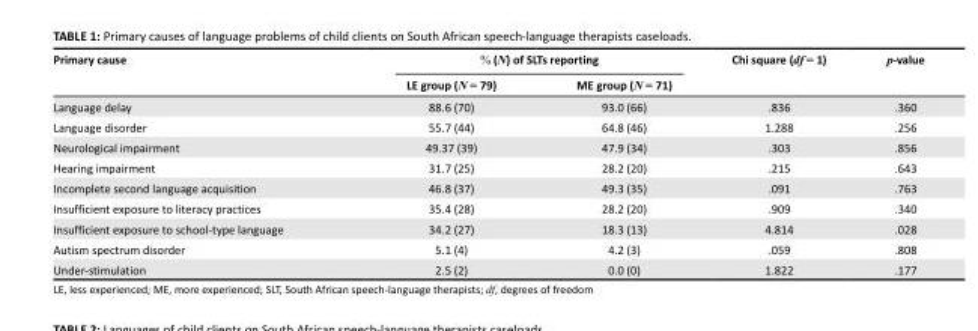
<table><thead><tr><td rowspan="2">Primary cause</td><td colspan="2">% (N) of SLTs reporting</td><td rowspan="2">Chi square (df = 1)</td><td rowspan="2">p-value</td></tr><tr><td>LE group (N = 79)</td><td>ME group (N = 71)</td></tr></thead><tbody><tr><td>Language delay</td><td>88.6 (70)</td><td>93.0 (66)</td><td>.836</td><td>.360</td></tr><tr><td>Language disorder</td><td>55.7 (44)</td><td>64.8 (46)</td><td>1.288</td><td>.256</td></tr><tr><td>Neurological impairment</td><td>49.37 (39)</td><td>47.9 (34)</td><td>.303</td><td>.856</td></tr><tr><td>Hearing impairment</td><td>31.7 (25)</td><td>28.2 (20)</td><td>.215</td><td>.643</td></tr><tr><td>Incomplete second language acquisition</td><td>46.8 (37)</td><td>49.3 (35)</td><td>.091</td><td>.763</td></tr><tr><td>Insufficient exposure to literacy practices</td><td>35.4 (28)</td><td>28.2 (20)</td><td>.909</td><td>.340</td></tr><tr><td>Insufficient exposure to school-type language</td><td>34.2 (27)</td><td>18.3 (13)</td><td>4.814</td><td>.028</td></tr><tr><td>Autism spectrum disorder</td><td>5.1 (4)</td><td>4.2 (3)</td><td>.059</td><td>.808</td></tr><tr><td>Under-stimulation</td><td>2.5 (2)</td><td>0.0 (0)</td><td>1.822</td><td>.177</td></tr></tbody></table>